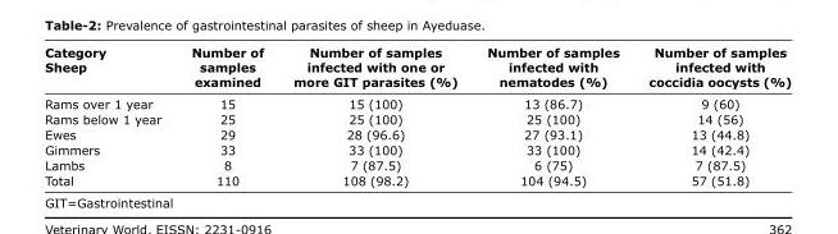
<table><thead><tr><td>Category Sheep</td><td>Number of samples examined</td><td>Number of samples infected with one or more GIT parasites (%)</td><td>Number of samples infected with nematodes (%)</td><td>Number of samples infected with coccidia oocysts (%)</td></tr></thead><tbody><tr><td>Rams over 1 year</td><td>15</td><td>15 (100)</td><td>13 (86.7)</td><td>9 (60)</td></tr><tr><td>Rams below 1 year</td><td>25</td><td>25 (100)</td><td>25 (100)</td><td>14 (56)</td></tr><tr><td>Ewes</td><td>29</td><td>28 (96.6)</td><td>27 (93.1)</td><td>13 (44.8)</td></tr><tr><td>Gimmers</td><td>33</td><td>33 (100)</td><td>33 (100)</td><td>14 (42.4)</td></tr><tr><td>Lambs</td><td>8</td><td>7 (87.5)</td><td>6 (75)</td><td>7 (87.5)</td></tr><tr><td>Total</td><td>110</td><td>108 (98.2)</td><td>104 (94.5)</td><td>57 (51.8)</td></tr></tbody></table>